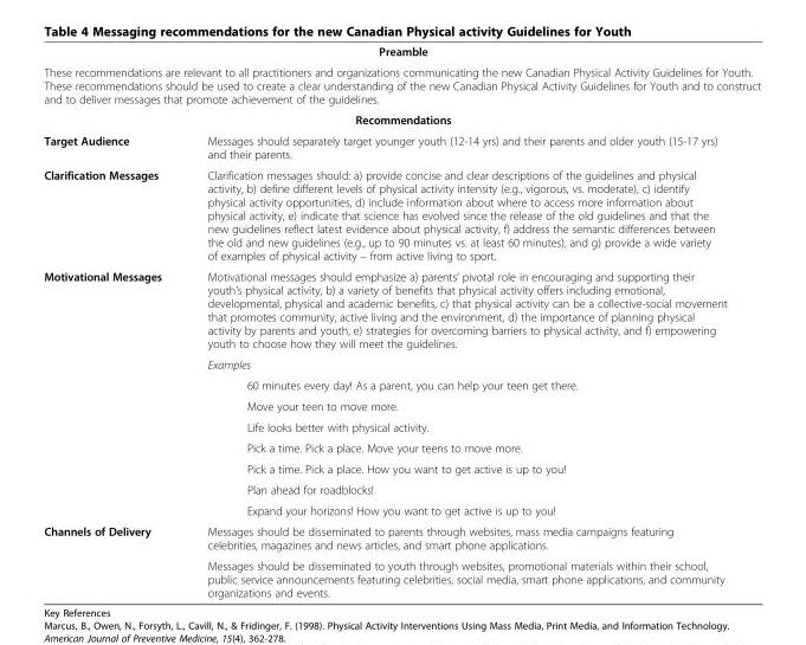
<table><tbody><tr><td colspan="2">Preamble</td></tr><tr><td colspan="2">These recommendations are relevant to all practitioners and organizations communicating the new Canadian Physical Activity Guidelines for Youth. These recommendations should be used to create a clear understanding of the new Canadian Physical Activity Guidelines for Youth and to construct and to deliver messages that promote achievement of the guidelines.</td></tr><tr><td colspan="2">Recommendations</td></tr><tr><td>Target Audience</td><td>Messages should separately target younger youth (12-14 yrs) and their parents and older youth (15-17 yrs) and their parents.</td></tr><tr><td>Clarification Messages</td><td>Clarification messages should: a) provide concise and clear descriptions of the guidelines and physical activity, b) define different levels of physical activity intensity (e.g., vigorous, vs. moderate), c) identify physical activity opportunities, d) include information about where to access more information about physical activity, e) indicate that science has evolved since the release of the old guidelines and that the new guidelines reflect latest evidence about physical activity, f) address the semantic differences between the old and new guidelines (e.g., up to 90 minutes vs. at least 60 minutes), and g) provide a wide variety of examples of physical activity – from active living to sport.</td></tr><tr><td rowspan="9">Motivational Messages</td><td>Motivational messages should emphasize a) parents’ pivotal role in encouraging and supporting their youth’s physical activity, b) a variety of benefits that physical activity offers including emotional, developmental, physical and academic benefits, c) that physical activity can be a collective-social movement that promotes community, active living and the environment, d) the importance of planning physical activity by parents and youth, e) strategies for overcoming barriers to physical activity, and f) empowering youth to choose how they will meet the guidelines.</td></tr><tr><td>Examples</td></tr><tr><td>60 minutes every day! As a parent, you can help your teen get there.</td></tr><tr><td>Move your teen to move more.</td></tr><tr><td>Life looks better with physical activity.</td></tr><tr><td>Pick a time. Pick a place. Move your teens to move more.</td></tr><tr><td>Pick a time. Pick a place. How you want to get active is up to you!</td></tr><tr><td>Plan ahead for roadblocks!</td></tr><tr><td>Expand your horizons! How you want to get active is up to you!</td></tr><tr><td rowspan="2">Channels of Delivery</td><td>Messages should be disseminated to parents through websites, mass media campaigns featuring celebrities, magazines and news articles, and smart phone applications.</td></tr><tr><td>Messages should be disseminated to youth through websites, promotional materials within their school, public service announcements featuring celebrities, social media, smart phone applications, and community organizations and events.</td></tr></tbody></table>